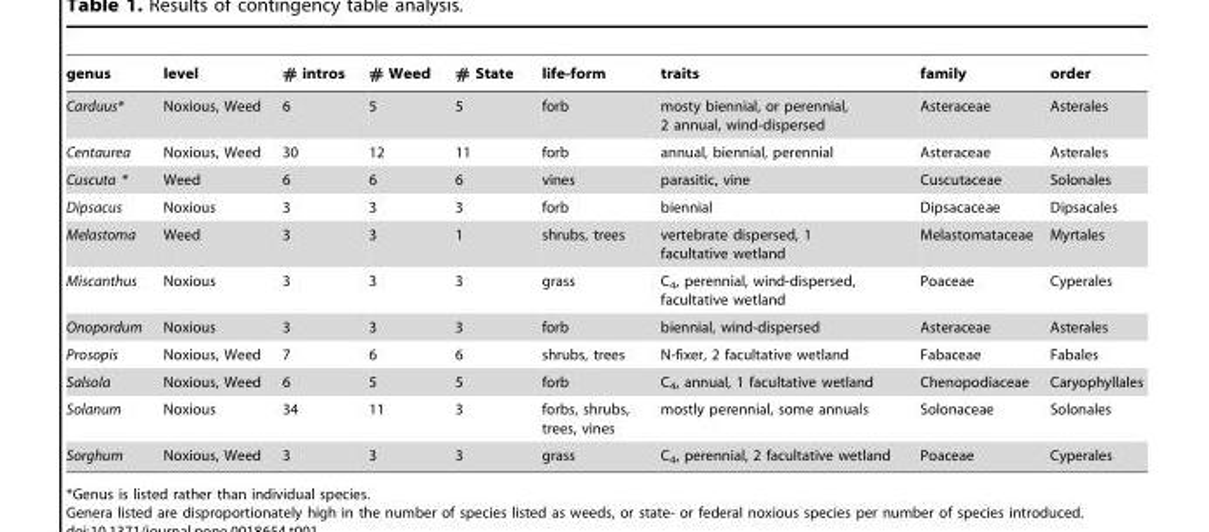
<table><thead><tr><td>genus</td><td>level</td><td># intros</td><td># Weed</td><td># State</td><td>life-form</td><td>traits</td><td>family</td><td>order</td></tr></thead><tbody><tr><td>Carduus*</td><td>Noxious, Weed</td><td>6</td><td>5</td><td>5</td><td>forb</td><td>mosty biennial, or perennial, 2 annual, wind-dispersed</td><td>Asteraceae</td><td>Asterales</td></tr><tr><td>Centaurea</td><td>Noxious, Weed</td><td>30</td><td>12</td><td>11</td><td>forb</td><td>annual, biennial, perennial</td><td>Asteraceae</td><td>Asterales</td></tr><tr><td>Cuscuta *</td><td>Weed</td><td>6</td><td>6</td><td>6</td><td>vines</td><td>parasitic, vine</td><td>Cuscutaceae</td><td>Solonales</td></tr><tr><td>Dipsacus</td><td>Noxious</td><td>3</td><td>3</td><td>3</td><td>forb</td><td>biennial</td><td>Dipsacaceae</td><td>Dipsacales</td></tr><tr><td>Melastoma</td><td>Weed</td><td>3</td><td>3</td><td>1</td><td>shrubs, trees</td><td>vertebrate dispersed, 1 facultative wetland</td><td>Melastomataceae</td><td>Myrtales</td></tr><tr><td>Miscanthus</td><td>Noxious</td><td>3</td><td>3</td><td>3</td><td>grass</td><td>C<sub>4</sub>, perennial, wind-dispersed, facultative wetland</td><td>Poaceae</td><td>Cyperales</td></tr><tr><td>Onopordum</td><td>Noxious</td><td>3</td><td>3</td><td>3</td><td>forb</td><td>biennial, wind-dispersed</td><td>Asteraceae</td><td>Asterales</td></tr><tr><td>Prosopis</td><td>Noxious, Weed</td><td>7</td><td>6</td><td>6</td><td>shrubs, trees</td><td>N-fixer, 2 facultative wetland</td><td>Fabaceae</td><td>Fabales</td></tr><tr><td>Salsola</td><td>Noxious, Weed</td><td>6</td><td>5</td><td>5</td><td>forb</td><td>C<sub>4</sub>, annual, 1 facultative wetland</td><td>Chenopodiaceae</td><td>Caryophyllales</td></tr><tr><td>Solanum</td><td>Noxious</td><td>34</td><td>11</td><td>3</td><td>forbs, shrubs, trees, vines</td><td>mostly perennial, some annuals</td><td>Solonaceae</td><td>Solonales</td></tr><tr><td>Sorghum</td><td>Noxious, Weed</td><td>3</td><td>3</td><td>3</td><td>grass</td><td>C<sub>4</sub>, perennial, 2 facultative wetland</td><td>Poaceae</td><td>Cyperales</td></tr></tbody></table>